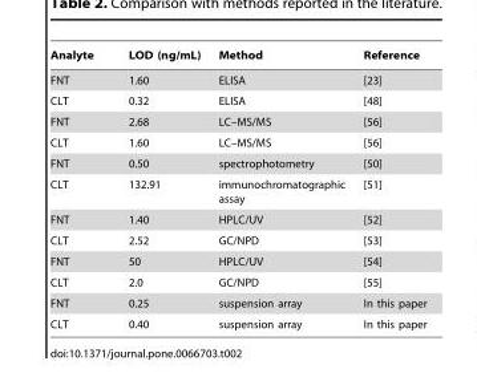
<table><thead><tr><td>Analyte</td><td>LOD (ng/mL)</td><td>Method</td><td>Reference</td></tr></thead><tbody><tr><td>FNT</td><td>1.60</td><td>ELISA</td><td>[23]</td></tr><tr><td>CLT</td><td>0.32</td><td>ELISA</td><td>[48]</td></tr><tr><td>FNT</td><td>2.68</td><td>LC–MS/MS</td><td>[56]</td></tr><tr><td>CLT</td><td>1.60</td><td>LC–MS/MS</td><td>[56]</td></tr><tr><td>FNT</td><td>0.50</td><td>spectrophotometry</td><td>[50]</td></tr><tr><td>CLT</td><td>132.91</td><td>immunochromatographic assay</td><td>[51]</td></tr><tr><td>FNT</td><td>1.40</td><td>HPLC/UV</td><td>[52]</td></tr><tr><td>CLT</td><td>2.52</td><td>GC/NPD</td><td>[53]</td></tr><tr><td>FNT</td><td>50</td><td>HPLC/UV</td><td>[54]</td></tr><tr><td>CLT</td><td>2.0</td><td>GC/NPD</td><td>[55]</td></tr><tr><td>FNT</td><td>0.25</td><td>suspension array</td><td>In this paper</td></tr><tr><td>CLT</td><td>0.40</td><td>suspension array</td><td>In this paper</td></tr></tbody></table>